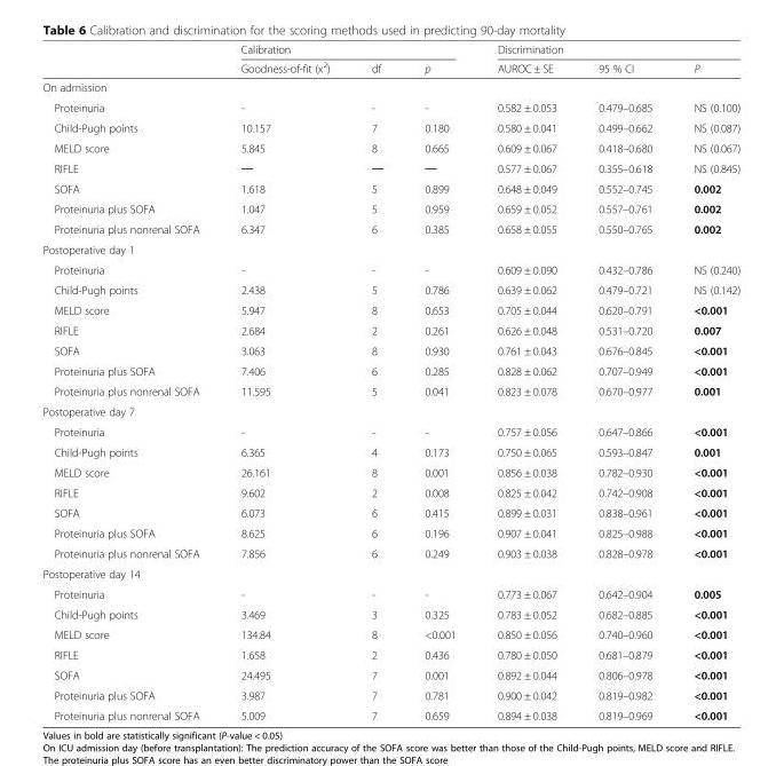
<table><thead><tr><td rowspan="2"></td><td colspan="3">Calibration</td><td colspan="3">Discrimination</td></tr><tr><td>Goodness-of-fit (x<sup>2</sup>)</td><td>df</td><td>p</td><td>AUROC ± SE</td><td>95 % CI</td><td>P</td></tr></thead><tbody><tr><td colspan="7">On admission</td></tr><tr><td>Proteinuria</td><td>-</td><td>-</td><td>-</td><td>0.582 ± 0.053</td><td>0.479–0.685</td><td>NS (0.100)</td></tr><tr><td>Child-Pugh points</td><td>10.157</td><td>7</td><td>0.180</td><td>0.580 ± 0.041</td><td>0.499–0.662</td><td>NS (0.087)</td></tr><tr><td>MELD score</td><td>5.845</td><td>8</td><td>0.665</td><td>0.609 ± 0.067</td><td>0.418–0.680</td><td>NS (0.067)</td></tr><tr><td>RIFLE</td><td>─</td><td>─</td><td>─</td><td>0.577 ± 0.067</td><td>0.355–0.618</td><td>NS (0.845)</td></tr><tr><td>SOFA</td><td>1.618</td><td>5</td><td>0.899</td><td>0.648 ± 0.049</td><td>0.552–0.745</td><td>0.002</td></tr><tr><td>Proteinuria plus SOFA</td><td>1.047</td><td>5</td><td>0.959</td><td>0.659 ± 0.052</td><td>0.557–0.761</td><td>0.002</td></tr><tr><td>Proteinuria plus nonrenal SOFA</td><td>6.347</td><td>6</td><td>0.385</td><td>0.658 ± 0.055</td><td>0.550–0.765</td><td>0.002</td></tr><tr><td colspan="7">Postoperative day 1</td></tr><tr><td>Proteinuria</td><td>-</td><td>-</td><td>-</td><td>0.609 ± 0.090</td><td>0.432–0.786</td><td>NS (0.240)</td></tr><tr><td>Child-Pugh points</td><td>2.438</td><td>5</td><td>0.786</td><td>0.639 ± 0.062</td><td>0.479–0.721</td><td>NS (0.142)</td></tr><tr><td>MELD score</td><td>5.947</td><td>8</td><td>0.653</td><td>0.705 ± 0.044</td><td>0.620–0.791</td><td>&lt;0.001</td></tr><tr><td>RIFLE</td><td>2.684</td><td>2</td><td>0.261</td><td>0.626 ± 0.048</td><td>0.531–0.720</td><td>0.007</td></tr><tr><td>SOFA</td><td>3.063</td><td>8</td><td>0.930</td><td>0.761 ± 0.043</td><td>0.676–0.845</td><td>&lt;0.001</td></tr><tr><td>Proteinuria plus SOFA</td><td>7.406</td><td>6</td><td>0.285</td><td>0.828 ± 0.062</td><td>0.707–0.949</td><td>&lt;0.001</td></tr><tr><td>Proteinuria plus nonrenal SOFA</td><td>11.595</td><td>5</td><td>0.041</td><td>0.823 ± 0.078</td><td>0.670–0.977</td><td>0.001</td></tr><tr><td colspan="7">Postoperative day 7</td></tr><tr><td>Proteinuria</td><td>-</td><td>-</td><td>-</td><td>0.757 ± 0.056</td><td>0.647–0.866</td><td>&lt;0.001</td></tr><tr><td>Child-Pugh points</td><td>6.365</td><td>4</td><td>0.173</td><td>0.750 ± 0.065</td><td>0.593–0.847</td><td>0.001</td></tr><tr><td>MELD score</td><td>26.161</td><td>8</td><td>0.001</td><td>0.856 ± 0.038</td><td>0.782–0.930</td><td>&lt;0.001</td></tr><tr><td>RIFLE</td><td>9.602</td><td>2</td><td>0.008</td><td>0.825 ± 0.042</td><td>0.742–0.908</td><td>&lt;0.001</td></tr><tr><td>SOFA</td><td>6.073</td><td>6</td><td>0.415</td><td>0.899 ± 0.031</td><td>0.838–0.961</td><td>&lt;0.001</td></tr><tr><td>Proteinuria plus SOFA</td><td>8.625</td><td>6</td><td>0.196</td><td>0.907 ± 0.041</td><td>0.825–0.988</td><td>&lt;0.001</td></tr><tr><td>Proteinuria plus nonrenal SOFA</td><td>7.856</td><td>6</td><td>0.249</td><td>0.903 ± 0.038</td><td>0.828–0.978</td><td>&lt;0.001</td></tr><tr><td colspan="7">Postoperative day 14</td></tr><tr><td>Proteinuria</td><td>-</td><td>-</td><td>-</td><td>0.773 ± 0.067</td><td>0.642–0.904</td><td>0.005</td></tr><tr><td>Child-Pugh points</td><td>3.469</td><td>3</td><td>0.325</td><td>0.783 ± 0.052</td><td>0.682–0.885</td><td>&lt;0.001</td></tr><tr><td>MELD score</td><td>134.84</td><td>8</td><td>&lt;0.001</td><td>0.850 ± 0.056</td><td>0.740–0.960</td><td>&lt;0.001</td></tr><tr><td>RIFLE</td><td>1.658</td><td>2</td><td>0.436</td><td>0.780 ± 0.050</td><td>0.681–0.879</td><td>&lt;0.001</td></tr><tr><td>SOFA</td><td>24.495</td><td>7</td><td>0.001</td><td>0.892 ± 0.044</td><td>0.806–0.978</td><td>&lt;0.001</td></tr><tr><td>Proteinuria plus SOFA</td><td>3.987</td><td>7</td><td>0.781</td><td>0.900 ± 0.042</td><td>0.819–0.982</td><td>&lt;0.001</td></tr><tr><td>Proteinuria plus nonrenal SOFA</td><td>5.009</td><td>7</td><td>0.659</td><td>0.894 ± 0.038</td><td>0.819–0.969</td><td>&lt;0.001</td></tr></tbody></table>